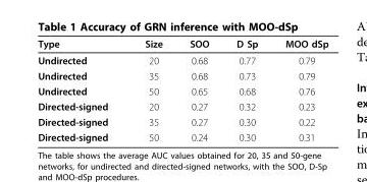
<table><thead><tr><td>Type</td><td>Size</td><td>SOO</td><td>D Sp</td><td>MOO dSp</td></tr></thead><tbody><tr><td>Undirected</td><td>20</td><td>0.68</td><td>0.77</td><td>0.79</td></tr><tr><td>Undirected</td><td>35</td><td>0.68</td><td>0.73</td><td>0.79</td></tr><tr><td>Undirected</td><td>50</td><td>0.65</td><td>0.68</td><td>0.76</td></tr><tr><td>Directed-signed</td><td>20</td><td>0.27</td><td>0.32</td><td>0.23</td></tr><tr><td>Directed-signed</td><td>35</td><td>0.27</td><td>0.30</td><td>0.22</td></tr><tr><td>Directed-signed</td><td>50</td><td>0.24</td><td>0.30</td><td>0.31</td></tr></tbody></table>